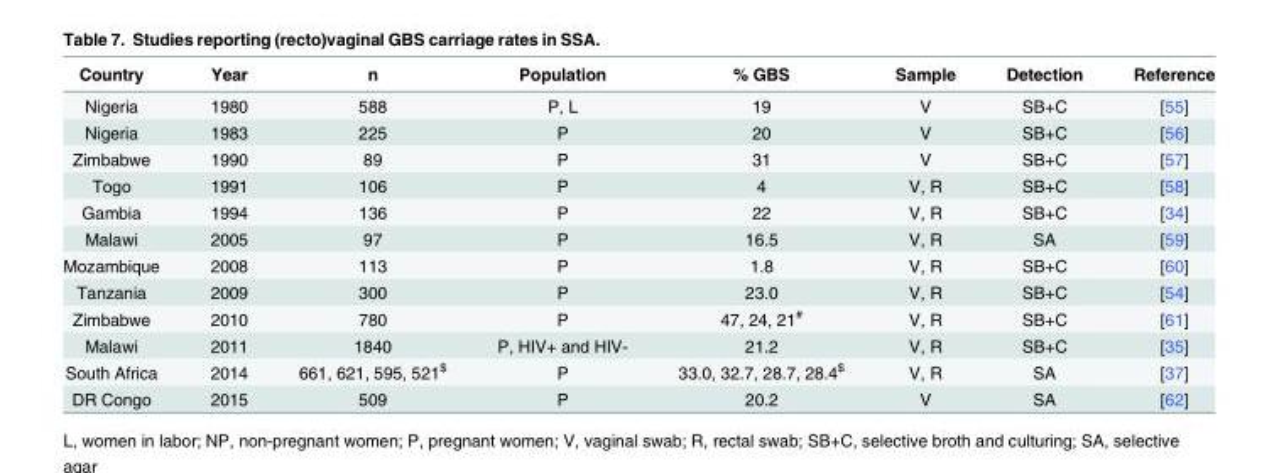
<table><thead><tr><td>Country</td><td>Year</td><td>n</td><td>Population</td><td>% GBS</td><td>Sample</td><td>Detection</td><td>Reference</td></tr></thead><tbody><tr><td>Nigeria</td><td>1980</td><td>588</td><td>P, L</td><td>19</td><td>V</td><td>SB+C</td><td>[55]</td></tr><tr><td>Nigeria</td><td>1983</td><td>225</td><td>P</td><td>20</td><td>V</td><td>SB+C</td><td>[56]</td></tr><tr><td>Zimbabwe</td><td>1990</td><td>89</td><td>P</td><td>31</td><td>V</td><td>SB+C</td><td>[57]</td></tr><tr><td>Togo</td><td>1991</td><td>106</td><td>P</td><td>4</td><td>V, R</td><td>SB+C</td><td>[58]</td></tr><tr><td>Gambia</td><td>1994</td><td>136</td><td>P</td><td>22</td><td>V, R</td><td>SB+C</td><td>[34]</td></tr><tr><td>Malawi</td><td>2005</td><td>97</td><td>P</td><td>16.5</td><td>V, R</td><td>SA</td><td>[59]</td></tr><tr><td>Mozambique</td><td>2008</td><td>113</td><td>P</td><td>1.8</td><td>V, R</td><td>SB+C</td><td>[60]</td></tr><tr><td>Tanzania</td><td>2009</td><td>300</td><td>P</td><td>23.0</td><td>V, R</td><td>SB+C</td><td>[54]</td></tr><tr><td>Zimbabwe</td><td>2010</td><td>780</td><td>P</td><td>47, 24, 21<sup>#</sup></td><td>V, R</td><td>SB+C</td><td>[61]</td></tr><tr><td>Malawi</td><td>2011</td><td>1840</td><td>P, HIV+ and HIV-</td><td>21.2</td><td>V, R</td><td>SB+C</td><td>[35]</td></tr><tr><td>South Africa</td><td>2014</td><td>661, 621, 595, 521<sup>$</sup></td><td>P</td><td>33.0, 32.7, 28.7, 28.4<sup>$</sup></td><td>V, R</td><td>SA</td><td>[37]</td></tr><tr><td>DR Congo</td><td>2015</td><td>509</td><td>P</td><td>20.2</td><td>V</td><td>SA</td><td>[62]</td></tr></tbody></table>